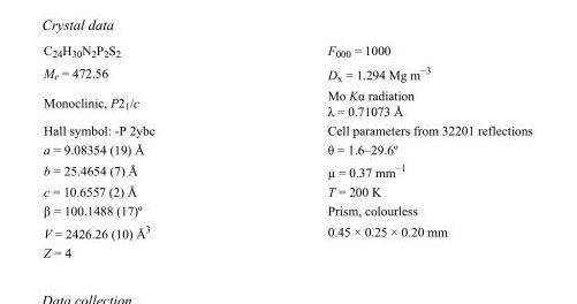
<table><tbody><tr><td>C<sub>24</sub>H<sub>30</sub>N<sub>2</sub>P<sub>2</sub>S<sub>2</sub></td><td>F000 = 1000</td></tr><tr><td>M<sub>r</sub> = 472.56</td><td>D<sub>x</sub> = 1.294 Mg m<sup>−3</sup></td></tr><tr><td>Monoclinic, P2<sub>1</sub>/c</td><td>Mo Kα radiation λ = 0.71073 Å</td></tr><tr><td>Hall symbol: -P 2ybc</td><td>Cell parameters from 32201 reflections</td></tr><tr><td>a = 9.08354 (19) Å</td><td>θ = 1.6–29.6º</td></tr><tr><td>b = 25.4654 (7) Å</td><td>µ = 0.37 mm<sup>−1</sup></td></tr><tr><td>c = 10.6557 (2) Å</td><td>T = 200 K</td></tr><tr><td>β = 100.1488 (17)º</td><td>Prism, colourless</td></tr><tr><td>V = 2426.26 (10) Å<sup>3</sup></td><td>0.45 × 0.25 × 0.20 mm</td></tr><tr><td>Z = 4</td><td></td></tr></tbody></table>